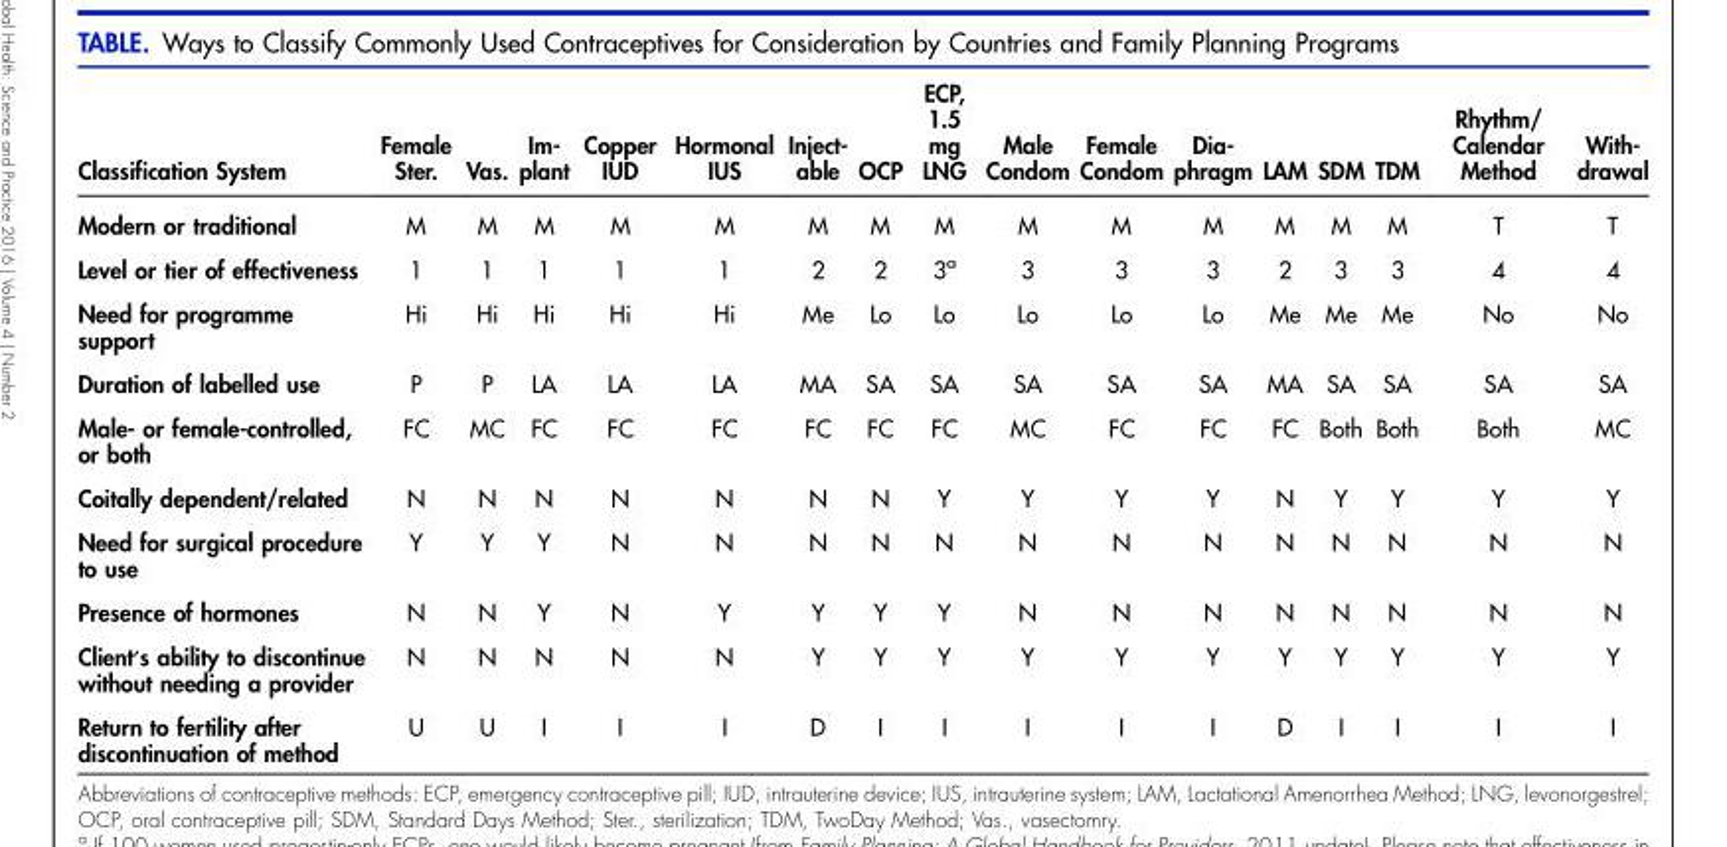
<table><thead><tr><td>Classification System</td><td>Female Ster.</td><td>Vas.</td><td>Im- plant</td><td>Copper IUD</td><td>Hormonal IUS</td><td>Inject- able</td><td>OCP</td><td>ECP, 1.5 mg LNG</td><td>Male Condom</td><td>Female Condom</td><td>Dia- phragm</td><td>LAM</td><td>SDM</td><td>TDM</td><td>Rhythm/ Calendar Method</td><td>With- drawal</td></tr></thead><tbody><tr><td>Modern or traditional</td><td>M</td><td>M</td><td>M</td><td>M</td><td>M</td><td>M</td><td>M</td><td>M</td><td>M</td><td>M</td><td>M</td><td>M</td><td>M</td><td>M</td><td>T</td><td>T</td></tr><tr><td>Level or tier of effectiveness</td><td>1</td><td>1</td><td>1</td><td>1</td><td>1</td><td>2</td><td>2</td><td>3<sup>a</sup></td><td>3</td><td>3</td><td>3</td><td>2</td><td>3</td><td>3</td><td>4</td><td>4</td></tr><tr><td>Need for programme support</td><td>Hi</td><td>Hi</td><td>Hi</td><td>Hi</td><td>Hi</td><td>Me</td><td>Lo</td><td>Lo</td><td>Lo</td><td>Lo</td><td>Lo</td><td>Me</td><td>Me</td><td>Me</td><td>No</td><td>No</td></tr><tr><td>Duration of labelled use</td><td>P</td><td>P</td><td>LA</td><td>LA</td><td>LA</td><td>MA</td><td>SA</td><td>SA</td><td>SA</td><td>SA</td><td>SA</td><td>MA</td><td>SA</td><td>SA</td><td>SA</td><td>SA</td></tr><tr><td>Male- or female-controlled, or both</td><td>FC</td><td>MC</td><td>FC</td><td>FC</td><td>FC</td><td>FC</td><td>FC</td><td>FC</td><td>MC</td><td>FC</td><td>FC</td><td>FC</td><td>Both</td><td>Both</td><td>Both</td><td>MC</td></tr><tr><td>Coitally dependent/related</td><td>N</td><td>N</td><td>N</td><td>N</td><td>N</td><td>N</td><td>N</td><td>Y</td><td>Y</td><td>Y</td><td>Y</td><td>N</td><td>Y</td><td>Y</td><td>Y</td><td>Y</td></tr><tr><td>Need for surgical procedure to use</td><td>Y</td><td>Y</td><td>Y</td><td>N</td><td>N</td><td>N</td><td>N</td><td>N</td><td>N</td><td>N</td><td>N</td><td>N</td><td>N</td><td>N</td><td>N</td><td>N</td></tr><tr><td>Presence of hormones</td><td>N</td><td>N</td><td>Y</td><td>N</td><td>Y</td><td>Y</td><td>Y</td><td>Y</td><td>N</td><td>N</td><td>N</td><td>N</td><td>N</td><td>N</td><td>N</td><td>N</td></tr><tr><td>Client’s ability to discontinue without needing a provider</td><td>N</td><td>N</td><td>N</td><td>N</td><td>N</td><td>Y</td><td>Y</td><td>Y</td><td>Y</td><td>Y</td><td>Y</td><td>Y</td><td>Y</td><td>Y</td><td>Y</td><td>Y</td></tr><tr><td>Return to fertility after discontinuation of method</td><td>U</td><td>U</td><td>I</td><td>I</td><td>I</td><td>D</td><td>I</td><td>I</td><td>I</td><td>I</td><td>I</td><td>D</td><td>I</td><td>I</td><td>I</td><td>I</td></tr></tbody></table>